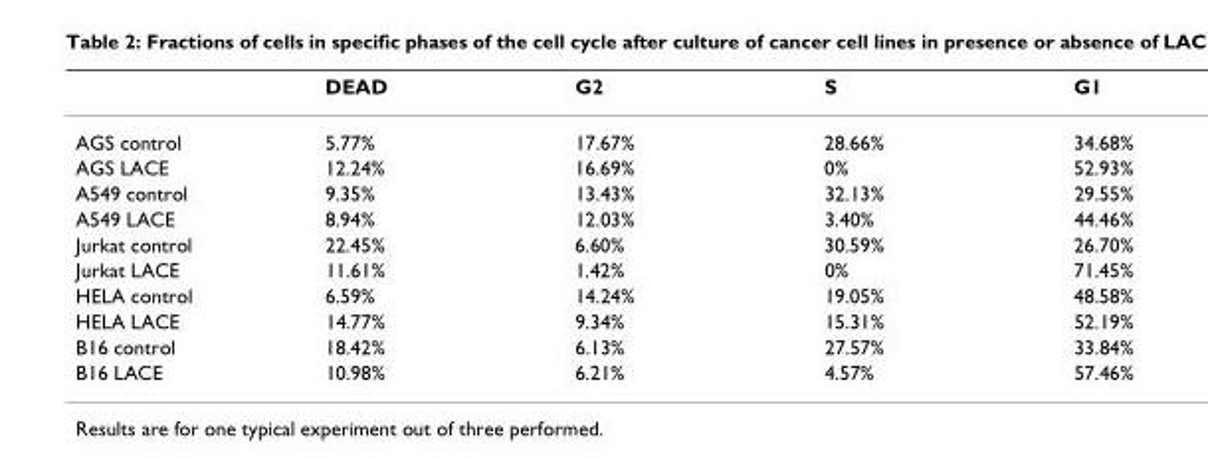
<table><thead><tr><td></td><td>DEAD</td><td>G2</td><td>S</td><td>G1</td></tr></thead><tbody><tr><td>AGS control</td><td>5.77%</td><td>17.67%</td><td>28.66%</td><td>34.68%</td></tr><tr><td>AGS LACE</td><td>12.24%</td><td>16.69%</td><td>0%</td><td>52.93%</td></tr><tr><td>A549 control</td><td>9.35%</td><td>13.43%</td><td>32.13%</td><td>29.55%</td></tr><tr><td>A549 LACE</td><td>8.94%</td><td>12.03%</td><td>3.40%</td><td>44.46%</td></tr><tr><td>Jurkat control</td><td>22.45%</td><td>6.60%</td><td>30.59%</td><td>26.70%</td></tr><tr><td>Jurkat LACE</td><td>11.61%</td><td>1.42%</td><td>0%</td><td>71.45%</td></tr><tr><td>HELA control</td><td>6.59%</td><td>14.24%</td><td>19.05%</td><td>48.58%</td></tr><tr><td>HELA LACE</td><td>14.77%</td><td>9.34%</td><td>15.31%</td><td>52.19%</td></tr><tr><td>B16 control</td><td>18.42%</td><td>6.13%</td><td>27.57%</td><td>33.84%</td></tr><tr><td>B16 LACE</td><td>10.98%</td><td>6.21%</td><td>4.57%</td><td>57.46%</td></tr></tbody></table>